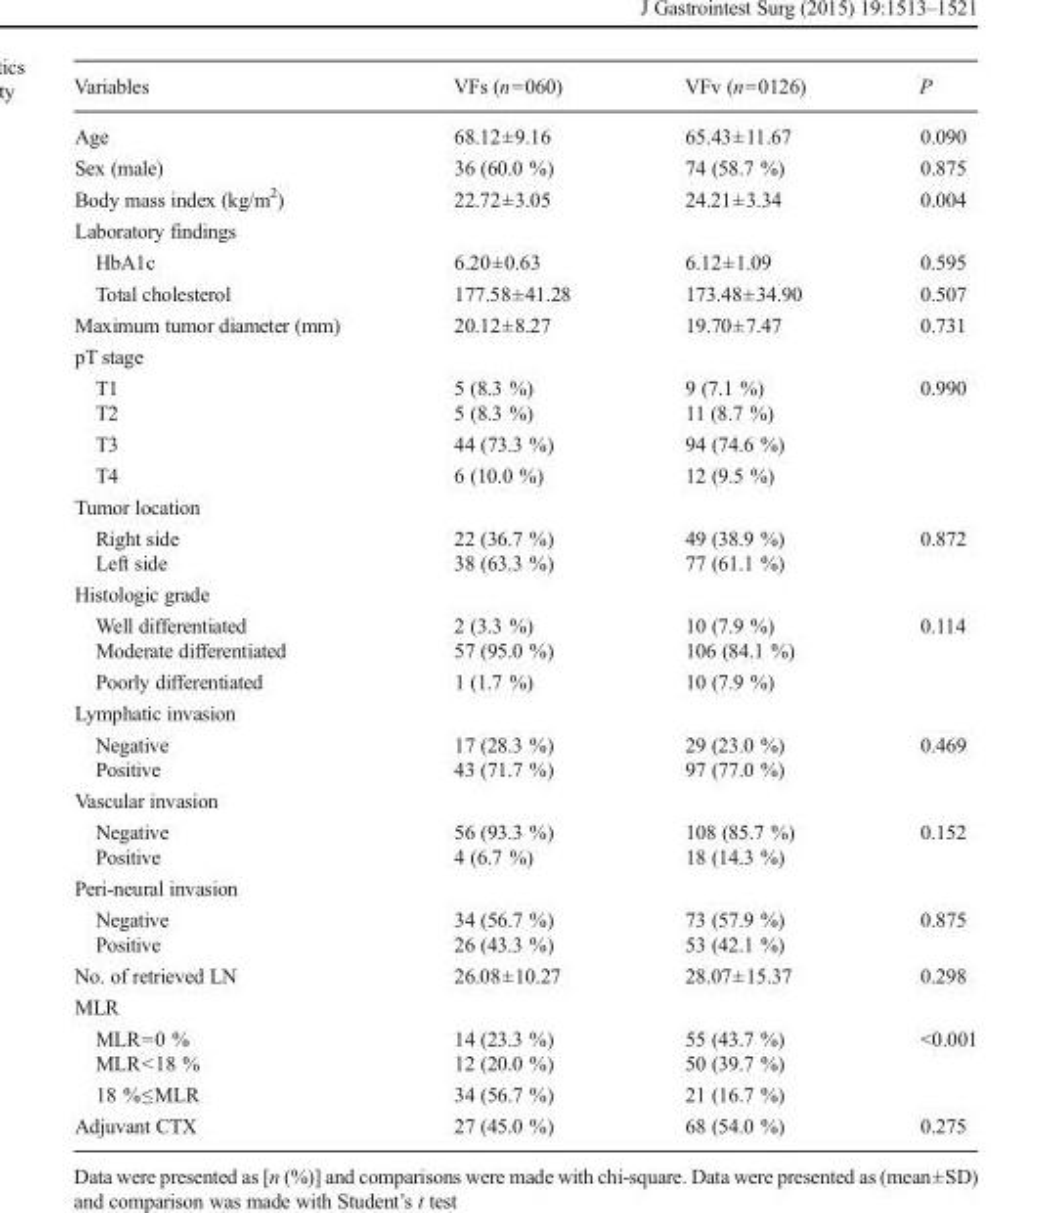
<table><thead><tr><td>Variables</td><td>VFs (n=060)</td><td>VFv (n=0126)</td><td>P</td></tr></thead><tbody><tr><td>Age</td><td>68.12±9.16</td><td>65.43±11.67</td><td>0.090</td></tr><tr><td>Sex (male)</td><td>36 (60.0 %)</td><td>74 (58.7 %)</td><td>0.875</td></tr><tr><td>Body mass index (kg/m<sup>2</sup>)</td><td>22.72±3.05</td><td>24.21±3.34</td><td>0.004</td></tr><tr><td colspan="4">Laboratory findings</td></tr><tr><td>HbA1c</td><td>6.20±0.63</td><td>6.12±1.09</td><td>0.595</td></tr><tr><td>Total cholesterol</td><td>177.58±41.28</td><td>173.48±34.90</td><td>0.507</td></tr><tr><td>Maximum tumor diameter (mm)</td><td>20.12±8.27</td><td>19.70±7.47</td><td>0.731</td></tr><tr><td colspan="4">pT stage</td></tr><tr><td>T1</td><td>5 (8.3 %)</td><td>9 (7.1 %)</td><td rowspan="4">0.990</td></tr><tr><td>T2</td><td>5 (8.3 %)</td><td>11 (8.7 %)</td></tr><tr><td>T3</td><td>44 (73.3 %)</td><td>94 (74.6 %)</td></tr><tr><td>T4</td><td>6 (10.0 %)</td><td>12 (9.5 %)</td></tr><tr><td colspan="4">Tumor location</td></tr><tr><td>Right side</td><td>22 (36.7 %)</td><td>49 (38.9 %)</td><td rowspan="2">0.872</td></tr><tr><td>Left side</td><td>38 (63.3 %)</td><td>77 (61.1 %)</td></tr><tr><td colspan="4">Histologic grade</td></tr><tr><td>Well differentiated</td><td>2 (3.3 %)</td><td>10 (7.9 %)</td><td rowspan="3">0.114</td></tr><tr><td>Moderate differentiated</td><td>57 (95.0 %)</td><td>106 (84.1 %)</td></tr><tr><td>Poorly differentiated</td><td>1 (1.7 %)</td><td>10 (7.9 %)</td></tr><tr><td colspan="4">Lymphatic invasion</td></tr><tr><td>Negative</td><td>17 (28.3 %)</td><td>29 (23.0 %)</td><td rowspan="2">0.469</td></tr><tr><td>Positive</td><td>43 (71.7 %)</td><td>97 (77.0 %)</td></tr><tr><td colspan="4">Vascular invasion</td></tr><tr><td>Negative</td><td>56 (93.3 %)</td><td>108 (85.7 %)</td><td rowspan="2">0.152</td></tr><tr><td>Positive</td><td>4 (6.7 %)</td><td>18 (14.3 %)</td></tr><tr><td colspan="4">Peri-neural invasion</td></tr><tr><td>Negative</td><td>34 (56.7 %)</td><td>73 (57.9 %)</td><td rowspan="2">0.875</td></tr><tr><td>Positive</td><td>26 (43.3 %)</td><td>53 (42.1 %)</td></tr><tr><td>No. of retrieved LN</td><td>26.08±10.27</td><td>28.07±15.37</td><td>0.298</td></tr><tr><td colspan="4">MLR</td></tr><tr><td>MLR=0 %</td><td>14 (23.3 %)</td><td>55 (43.7 %)</td><td rowspan="3">&lt;0.001</td></tr><tr><td>MLR&lt;18 %</td><td>12 (20.0 %)</td><td>50 (39.7 %)</td></tr><tr><td>18 %≤MLR</td><td>34 (56.7 %)</td><td>21 (16.7 %)</td></tr><tr><td>Adjuvant CTX</td><td>27 (45.0 %)</td><td>68 (54.0 %)</td><td>0.275</td></tr></tbody></table>